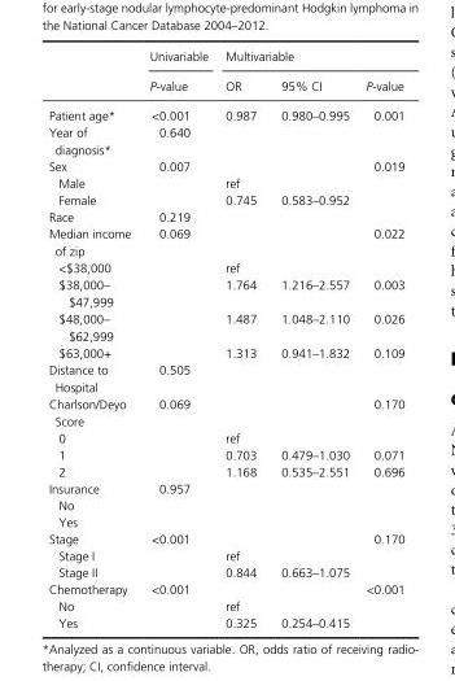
<table><thead><tr><td rowspan="2"></td><td rowspan="2">Univariable P- value</td><td colspan="3">Multivariable</td></tr><tr><td>OR</td><td>95% CI</td><td>P- value</td></tr></thead><tbody><tr><td>Patient age*</td><td>&lt;0.001</td><td>0.987</td><td>0.980–0.995</td><td>0.001</td></tr><tr><td>Year of diagnosis*</td><td>0.640</td><td></td><td></td><td></td></tr><tr><td>Sex</td><td>0.007</td><td></td><td></td><td>0.019</td></tr><tr><td>Male</td><td></td><td>ref</td><td></td><td></td></tr><tr><td>Female</td><td></td><td>0.745</td><td>0.583–0.952</td><td></td></tr><tr><td>Race</td><td>0.219</td><td></td><td></td><td></td></tr><tr><td>Median income of zip</td><td>0.069</td><td></td><td></td><td>0.022</td></tr><tr><td>&lt;$38,000</td><td></td><td>ref</td><td></td><td></td></tr><tr><td>$38,000– $47,999</td><td></td><td>1.764</td><td>1.216–2.557</td><td>0.003</td></tr><tr><td>$48,000– $62,999</td><td></td><td>1.487</td><td>1.048–2.110</td><td>0.026</td></tr><tr><td>$63,000+</td><td></td><td>1.313</td><td>0.941–1.832</td><td>0.109</td></tr><tr><td>Distance to Hospital</td><td>0.505</td><td></td><td></td><td></td></tr><tr><td>Charlson/Deyo Score</td><td>0.069</td><td></td><td></td><td>0.170</td></tr><tr><td>0</td><td></td><td>ref</td><td></td><td></td></tr><tr><td>1</td><td></td><td>0.703</td><td>0.479–1.030</td><td>0.071</td></tr><tr><td>2</td><td></td><td>1.168</td><td>0.535–2.551</td><td>0.696</td></tr><tr><td>Insurance</td><td>0.957</td><td></td><td></td><td></td></tr><tr><td colspan="5">No</td></tr><tr><td colspan="5">Yes</td></tr><tr><td>Stage</td><td>&lt;0.001</td><td></td><td></td><td>0.170</td></tr><tr><td>Stage I</td><td></td><td>ref</td><td></td><td></td></tr><tr><td>Stage II</td><td></td><td>0.844</td><td>0.663–1.075</td><td></td></tr><tr><td>Chemotherapy</td><td>&lt;0.001</td><td></td><td></td><td>&lt;0.001</td></tr><tr><td>No</td><td></td><td>ref</td><td></td><td></td></tr><tr><td>Yes</td><td></td><td>0.325</td><td>0.254–0.415</td><td></td></tr></tbody></table>